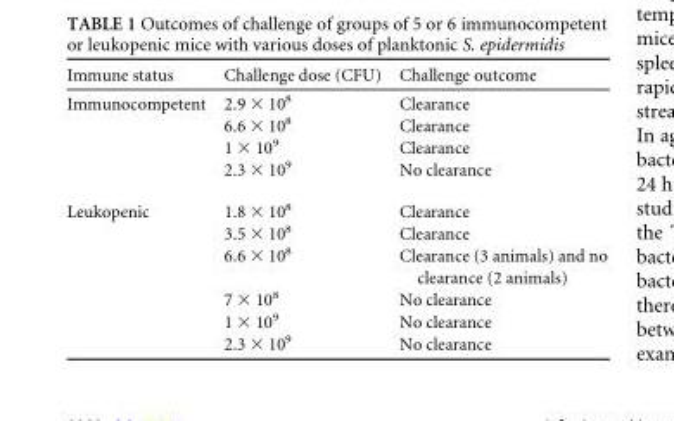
<table><thead><tr><td>Immune status</td><td>Challenge dose (CFU)</td><td>Challenge outcome</td></tr></thead><tbody><tr><td rowspan="4">Immunocompetent</td><td>2.9 × 10<sup>8</sup></td><td>Clearance</td></tr><tr><td>6.6 × 10<sup>8</sup></td><td>Clearance</td></tr><tr><td>1 × 10<sup>9</sup></td><td>Clearance</td></tr><tr><td>2.3 × 10<sup>9</sup></td><td>No clearance</td></tr><tr><td rowspan="6">Leukopenic</td><td>1.8 × 10<sup>8</sup></td><td>Clearance</td></tr><tr><td>3.5 × 10<sup>8</sup></td><td>Clearance</td></tr><tr><td>6.6 × 10<sup>8</sup></td><td>Clearance (3 animals) and no clearance (2 animals)</td></tr><tr><td>7 × 10<sup>8</sup></td><td>No clearance</td></tr><tr><td>1 × 10<sup>9</sup></td><td>No clearance</td></tr><tr><td>2.3 × 10<sup>9</sup></td><td>No clearance</td></tr></tbody></table>